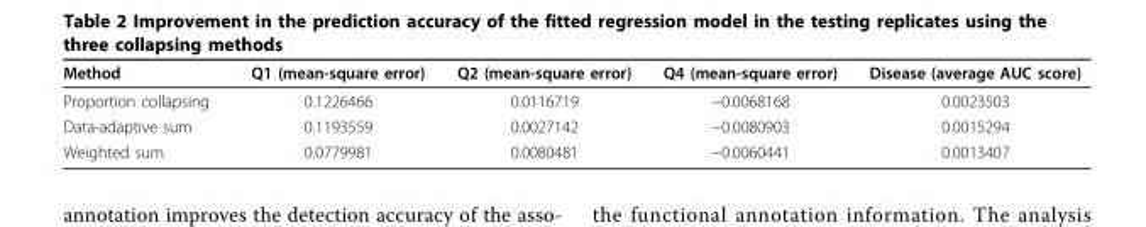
<table><thead><tr><td>Method</td><td>Q1 (mean-square error)</td><td>Q2 (mean-square error)</td><td>Q4 (mean-square error)</td><td>Disease (average AUC score)</td></tr></thead><tbody><tr><td>Proportion collapsing</td><td>0.1226466</td><td>0.0116719</td><td>−0.0068168</td><td>0.0023503</td></tr><tr><td>Data-adaptive sum</td><td>0.1193559</td><td>0.0027142</td><td>−0.0080903</td><td>0.0015294</td></tr><tr><td>Weighted sum</td><td>0.0779981</td><td>0.0080481</td><td>−0.0060441</td><td>0.0013407</td></tr></tbody></table>